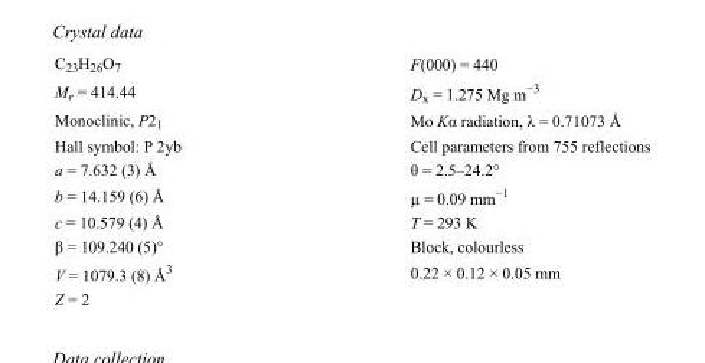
<table><tbody><tr><td>C<sub>23</sub>H<sub>26</sub>O<sub>7</sub></td><td>F(000) = 440</td></tr><tr><td>M<sub>r</sub> = 414.44</td><td>D<sub>x</sub> = 1.275 Mg m<sup>−3</sup></td></tr><tr><td>Monoclinic, P2<sub>1</sub></td><td>Mo Kα radiation, λ = 0.71073 Å</td></tr><tr><td>Hall symbol: P 2yb</td><td>Cell parameters from 755 reflections</td></tr><tr><td>a = 7.632 (3) Å</td><td>θ = 2.5–24.2°</td></tr><tr><td>b = 14.159 (6) Å</td><td>µ = 0.09 mm<sup>−1</sup></td></tr><tr><td>c = 10.579 (4) Å</td><td>T = 293 K</td></tr><tr><td>β = 109.240 (5)°</td><td>Block, colourless</td></tr><tr><td>V = 1079.3 (8) Å<sup>3</sup></td><td>0.22 × 0.12 × 0.05 mm</td></tr><tr><td>Z = 2</td><td></td></tr></tbody></table>